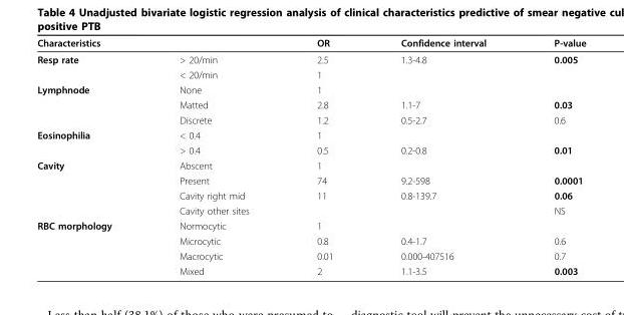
<table><thead><tr><td colspan="2">Characteristics</td><td rowspan="2">OR 2.5</td><td rowspan="2">Confidence interval 1.3-4.8</td><td rowspan="2">P-value 0.005</td></tr><tr><td>Resp rate</td><td>&gt; 20/min</td></tr></thead><tbody><tr><td></td><td>&lt; 20/min</td><td>1</td><td></td><td></td></tr><tr><td rowspan="3">Lymphnode</td><td>None</td><td>1</td><td></td><td></td></tr><tr><td>Matted</td><td>2.8</td><td>1.1-7</td><td>0.03</td></tr><tr><td>Discrete</td><td>1.2</td><td>0.5-2.7</td><td>0.6</td></tr><tr><td rowspan="2">Eosinophilia</td><td>&lt; 0.4</td><td>1</td><td></td><td></td></tr><tr><td>&gt; 0.4</td><td>0.5</td><td>0.2-0.8</td><td>0.01</td></tr><tr><td rowspan="4">Cavity</td><td>Abscent</td><td>1</td><td></td><td></td></tr><tr><td>Present</td><td>74</td><td>9.2-598</td><td>0.0001</td></tr><tr><td>Cavity right mid</td><td>11</td><td>0.8-139.7</td><td>0.06</td></tr><tr><td>Cavity other sites</td><td></td><td></td><td>NS</td></tr><tr><td rowspan="4">RBC morphology</td><td>Normocytic</td><td>1</td><td></td><td></td></tr><tr><td>Microcytic</td><td>0.8</td><td>0.4-1.7</td><td>0.6</td></tr><tr><td>Macrocytic</td><td>0.01</td><td>0.000-407516</td><td>0.7</td></tr><tr><td>Mixed</td><td>2</td><td>1.1-3.5</td><td>0.003</td></tr></tbody></table>